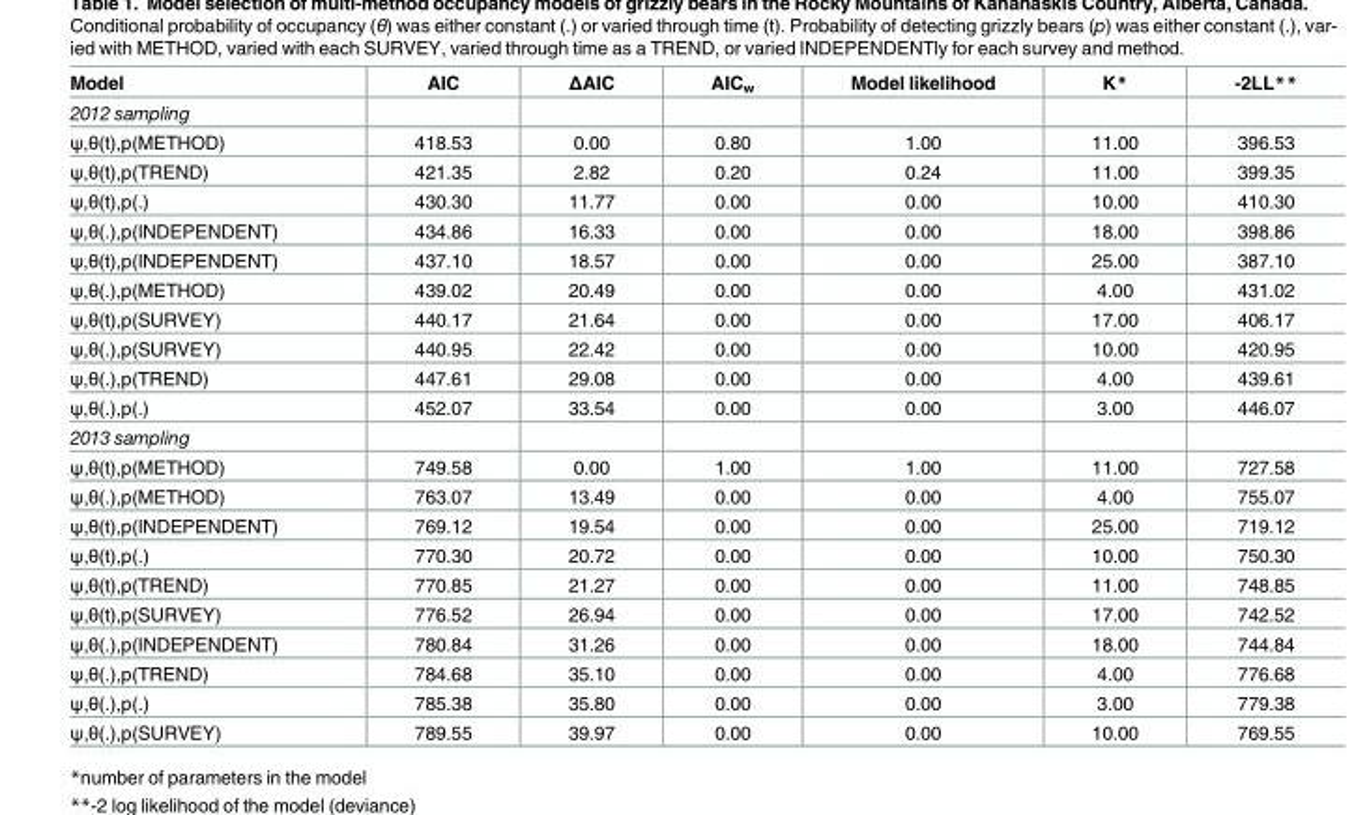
<table><thead><tr><td>Model</td><td>AIC</td><td>ΔAIC</td><td>AIC<sub>w</sub></td><td>Model likelihood</td><td>K*</td><td>-2LL**</td></tr></thead><tbody><tr><td colspan="7">2012 sampling</td></tr><tr><td>ψ,θ(t),p(METHOD)</td><td>418.53</td><td>0.00</td><td>0.80</td><td>1.00</td><td>11.00</td><td>396.53</td></tr><tr><td>ψ,θ(t),p(TREND)</td><td>421.35</td><td>2.82</td><td>0.20</td><td>0.24</td><td>11.00</td><td>399.35</td></tr><tr><td>ψ,θ(t),p(.)</td><td>430.30</td><td>11.77</td><td>0.00</td><td>0.00</td><td>10.00</td><td>410.30</td></tr><tr><td>ψ,θ(.),p(INDEPENDENT)</td><td>434.86</td><td>16.33</td><td>0.00</td><td>0.00</td><td>18.00</td><td>398.86</td></tr><tr><td>ψ,θ(t),p(INDEPENDENT)</td><td>437.10</td><td>18.57</td><td>0.00</td><td>0.00</td><td>25.00</td><td>387.10</td></tr><tr><td>ψ,θ(.),p(METHOD)</td><td>439.02</td><td>20.49</td><td>0.00</td><td>0.00</td><td>4.00</td><td>431.02</td></tr><tr><td>ψ,θ(t),p(SURVEY)</td><td>440.17</td><td>21.64</td><td>0.00</td><td>0.00</td><td>17.00</td><td>406.17</td></tr><tr><td>ψ,θ(.),p(SURVEY)</td><td>440.95</td><td>22.42</td><td>0.00</td><td>0.00</td><td>10.00</td><td>420.95</td></tr><tr><td>ψ,θ(.),p(TREND)</td><td>447.61</td><td>29.08</td><td>0.00</td><td>0.00</td><td>4.00</td><td>439.61</td></tr><tr><td>ψ,θ(.),p(.)</td><td>452.07</td><td>33.54</td><td>0.00</td><td>0.00</td><td>3.00</td><td>446.07</td></tr><tr><td colspan="7">2013 sampling</td></tr><tr><td>ψ,θ(t),p(METHOD)</td><td>749.58</td><td>0.00</td><td>1.00</td><td>1.00</td><td>11.00</td><td>727.58</td></tr><tr><td>ψ,θ(.),p(METHOD)</td><td>763.07</td><td>13.49</td><td>0.00</td><td>0.00</td><td>4.00</td><td>755.07</td></tr><tr><td>ψ,θ(t),p(INDEPENDENT)</td><td>769.12</td><td>19.54</td><td>0.00</td><td>0.00</td><td>25.00</td><td>719.12</td></tr><tr><td>ψ,θ(t),p(.)</td><td>770.30</td><td>20.72</td><td>0.00</td><td>0.00</td><td>10.00</td><td>750.30</td></tr><tr><td>ψ,θ(t),p(TREND)</td><td>770.85</td><td>21.27</td><td>0.00</td><td>0.00</td><td>11.00</td><td>748.85</td></tr><tr><td>ψ,θ(t),p(SURVEY)</td><td>776.52</td><td>26.94</td><td>0.00</td><td>0.00</td><td>17.00</td><td>742.52</td></tr><tr><td>ψ,θ(.),p(INDEPENDENT)</td><td>780.84</td><td>31.26</td><td>0.00</td><td>0.00</td><td>18.00</td><td>744.84</td></tr><tr><td>ψ,θ(.),p(TREND)</td><td>784.68</td><td>35.10</td><td>0.00</td><td>0.00</td><td>4.00</td><td>776.68</td></tr><tr><td>ψ,θ(.),p(.)</td><td>785.38</td><td>35.80</td><td>0.00</td><td>0.00</td><td>3.00</td><td>779.38</td></tr><tr><td>ψ,θ(.),p(SURVEY)</td><td>789.55</td><td>39.97</td><td>0.00</td><td>0.00</td><td>10.00</td><td>769.55</td></tr></tbody></table>